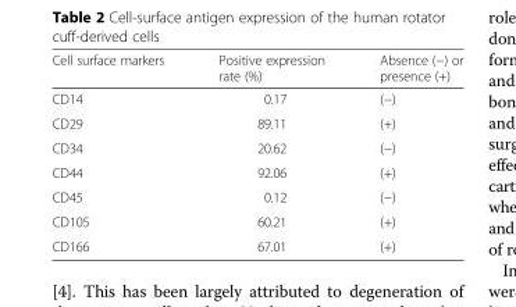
<table><thead><tr><td>Cell surface markers</td><td>Positive expression rate (%)</td><td>Absence (−) or presence (+)</td></tr></thead><tbody><tr><td>CD14</td><td>0.17</td><td>(−)</td></tr><tr><td>CD29</td><td>89.11</td><td>(+)</td></tr><tr><td>CD34</td><td>20.62</td><td>(−)</td></tr><tr><td>CD44</td><td>92.06</td><td>(+)</td></tr><tr><td>CD45</td><td>0.12</td><td>(−)</td></tr><tr><td>CD105</td><td>60.21</td><td>(+)</td></tr><tr><td>CD166</td><td>67.01</td><td>(+)</td></tr></tbody></table>